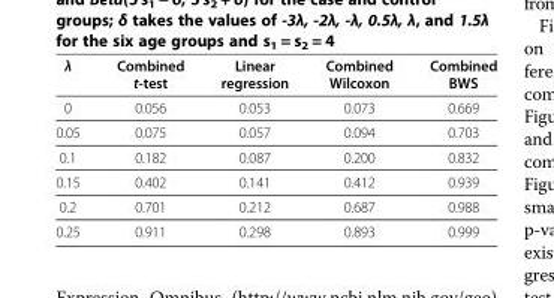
<table><thead><tr><td>λ</td><td>Combined t-test</td><td>Linear regression</td><td>Combined Wilcoxon</td><td>Combined BWS</td></tr></thead><tbody><tr><td>0</td><td>0.056</td><td>0.053</td><td>0.073</td><td>0.669</td></tr><tr><td>0.05</td><td>0.075</td><td>0.057</td><td>0.094</td><td>0.703</td></tr><tr><td>0.1</td><td>0.182</td><td>0.087</td><td>0.200</td><td>0.832</td></tr><tr><td>0.15</td><td>0.402</td><td>0.141</td><td>0.412</td><td>0.939</td></tr><tr><td>0.2</td><td>0.701</td><td>0.212</td><td>0.687</td><td>0.988</td></tr><tr><td>0.25</td><td>0.911</td><td>0.298</td><td>0.893</td><td>0.999</td></tr></tbody></table>